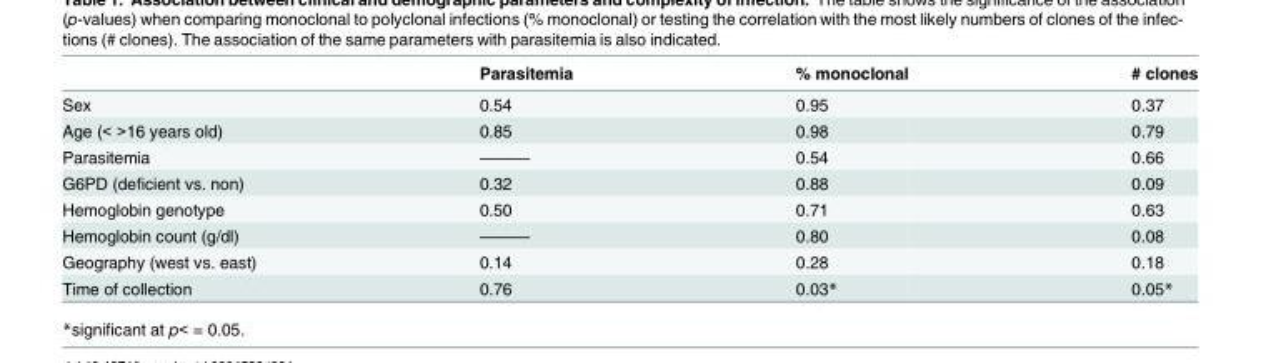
<table><thead><tr><td></td><td>Parasitemia</td><td>% monoclonal</td><td># clones</td></tr></thead><tbody><tr><td>Sex</td><td>0.54</td><td>0.95</td><td>0.37</td></tr><tr><td>Age (&lt; &gt;16 years old)</td><td>0.85</td><td>0.98</td><td>0.79</td></tr><tr><td>Parasitemia</td><td>———</td><td>0.54</td><td>0.66</td></tr><tr><td>G6PD (deficient vs. non)</td><td>0.32</td><td>0.88</td><td>0.09</td></tr><tr><td>Hemoglobin genotype</td><td>0.50</td><td>0.71</td><td>0.63</td></tr><tr><td>Hemoglobin count (g/dl)</td><td>———</td><td>0.80</td><td>0.08</td></tr><tr><td>Geography (west vs. east)</td><td>0.14</td><td>0.28</td><td>0.18</td></tr><tr><td>Time of collection</td><td>0.76</td><td>0.03*</td><td>0.05*</td></tr></tbody></table>